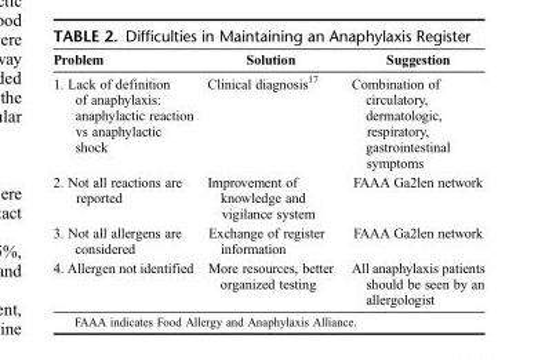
<table><thead><tr><td>Problem</td><td>Solution</td><td>Suggestion</td></tr></thead><tbody><tr><td>1. Lack of definition of anaphylaxis: anaphylactic reaction vs anaphylactic shock</td><td>Clinical diagnosis17</td><td>Combination of circulatory, dermatologic, respiratory, gastrointestinal symptoms</td></tr><tr><td>2. Not all reactions are reported</td><td>Improvement of knowledge and vigilance system</td><td>FAAA Ga2len network</td></tr><tr><td>3. Not all allergens are considered</td><td>Exchange of register information</td><td>FAAA Ga2len network</td></tr><tr><td>4. Allergen not identified</td><td>More resources, better organized testing</td><td>All anaphylaxis patients should be seen by an allergologist</td></tr></tbody></table>